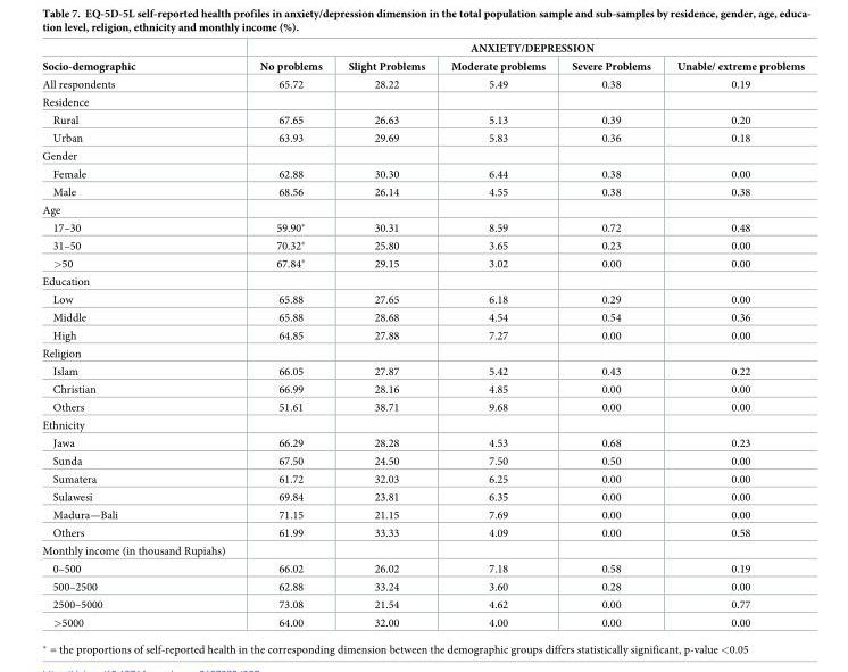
<table><thead><tr><td rowspan="2">Socio-demographic</td><td colspan="5">ANXIETY/DEPRESSION</td></tr><tr><td>No problems</td><td>Slight Problems</td><td>Moderate problems</td><td>Severe Problems</td><td>Unable/ extreme problems</td></tr></thead><tbody><tr><td>All respondents</td><td>65.72</td><td>28.22</td><td>5.49</td><td>0.38</td><td>0.19</td></tr><tr><td colspan="6">Residence</td></tr><tr><td>Rural</td><td>67.65</td><td>26.63</td><td>5.13</td><td>0.39</td><td>0.20</td></tr><tr><td>Urban</td><td>63.93</td><td>29.69</td><td>5.83</td><td>0.36</td><td>0.18</td></tr><tr><td colspan="6">Gender</td></tr><tr><td>Female</td><td>62.88</td><td>30.30</td><td>6.44</td><td>0.38</td><td>0.00</td></tr><tr><td>Male</td><td>68.56</td><td>26.14</td><td>4.55</td><td>0.38</td><td>0.38</td></tr><tr><td colspan="6">Age</td></tr><tr><td>17–30</td><td>59.90*</td><td>30.31</td><td>8.59</td><td>0.72</td><td>0.48</td></tr><tr><td>31–50</td><td>70.32*</td><td>25.80</td><td>3.65</td><td>0.23</td><td>0.00</td></tr><tr><td>&gt;50</td><td>67.84*</td><td>29.15</td><td>3.02</td><td>0.00</td><td>0.00</td></tr><tr><td colspan="6">Education</td></tr><tr><td>Low</td><td>65.88</td><td>27.65</td><td>6.18</td><td>0.29</td><td>0.00</td></tr><tr><td>Middle</td><td>65.88</td><td>28.68</td><td>4.54</td><td>0.54</td><td>0.36</td></tr><tr><td>High</td><td>64.85</td><td>27.88</td><td>7.27</td><td>0.00</td><td>0.00</td></tr><tr><td colspan="6">Religion</td></tr><tr><td>Islam</td><td>66.05</td><td>27.87</td><td>5.42</td><td>0.43</td><td>0.22</td></tr><tr><td>Christian</td><td>66.99</td><td>28.16</td><td>4.85</td><td>0.00</td><td>0.00</td></tr><tr><td>Others</td><td>51.61</td><td>38.71</td><td>9.68</td><td>0.00</td><td>0.00</td></tr><tr><td colspan="6">Ethnicity</td></tr><tr><td>Jawa</td><td>66.29</td><td>28.28</td><td>4.53</td><td>0.68</td><td>0.23</td></tr><tr><td>Sunda</td><td>67.50</td><td>24.50</td><td>7.50</td><td>0.50</td><td>0.00</td></tr><tr><td>Sumatera</td><td>61.72</td><td>32.03</td><td>6.25</td><td>0.00</td><td>0.00</td></tr><tr><td>Sulawesi</td><td>69.84</td><td>23.81</td><td>6.35</td><td>0.00</td><td>0.00</td></tr><tr><td>Madura—Bali</td><td>71.15</td><td>21.15</td><td>7.69</td><td>0.00</td><td>0.00</td></tr><tr><td>Others</td><td>61.99</td><td>33.33</td><td>4.09</td><td>0.00</td><td>0.58</td></tr><tr><td colspan="6">Monthly income (in thousand Rupiahs)</td></tr><tr><td>0–500</td><td>66.02</td><td>26.02</td><td>7.18</td><td>0.58</td><td>0.19</td></tr><tr><td>500–2500</td><td>62.88</td><td>33.24</td><td>3.60</td><td>0.28</td><td>0.00</td></tr><tr><td>2500–5000</td><td>73.08</td><td>21.54</td><td>4.62</td><td>0.00</td><td>0.77</td></tr><tr><td>&gt;5000</td><td>64.00</td><td>32.00</td><td>4.00</td><td>0.00</td><td>0.00</td></tr></tbody></table>